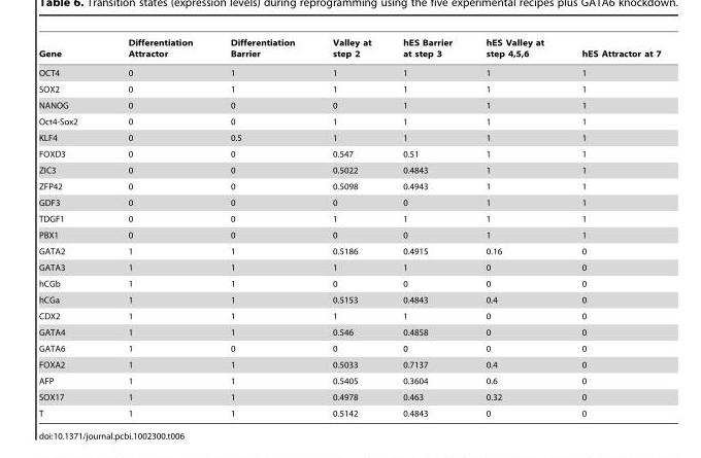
<table><thead><tr><td>Gene</td><td>Differentiation Attractor</td><td>Differentiation Barrier</td><td>Valley at step 2</td><td>hES Barrier at step 3</td><td>hES Valley at step 4,5,6</td><td>hES Attractor at 7</td></tr></thead><tbody><tr><td>OCT4</td><td>0</td><td>1</td><td>1</td><td>1</td><td>1</td><td>1</td></tr><tr><td>SOX2</td><td>0</td><td>1</td><td>1</td><td>1</td><td>1</td><td>1</td></tr><tr><td>NANOG</td><td>0</td><td>0</td><td>0</td><td>1</td><td>1</td><td>1</td></tr><tr><td>Oct4-Sox2</td><td>0</td><td>0</td><td>1</td><td>1</td><td>1</td><td>1</td></tr><tr><td>KLF4</td><td>0</td><td>0.5</td><td>1</td><td>1</td><td>1</td><td>1</td></tr><tr><td>FOXD3</td><td>0</td><td>0</td><td>0.547</td><td>0.51</td><td>1</td><td>1</td></tr><tr><td>ZIC3</td><td>0</td><td>0</td><td>0.5022</td><td>0.4843</td><td>1</td><td>1</td></tr><tr><td>ZFP42</td><td>0</td><td>0</td><td>0.5098</td><td>0.4943</td><td>1</td><td>1</td></tr><tr><td>GDF3</td><td>0</td><td>0</td><td>0</td><td>0</td><td>1</td><td>1</td></tr><tr><td>TDGF1</td><td>0</td><td>0</td><td>1</td><td>1</td><td>1</td><td>1</td></tr><tr><td>PBX1</td><td>0</td><td>0</td><td>0</td><td>0</td><td>1</td><td>1</td></tr><tr><td>GATA2</td><td>1</td><td>1</td><td>0.5186</td><td>0.4915</td><td>0.16</td><td>0</td></tr><tr><td>GATA3</td><td>1</td><td>1</td><td>1</td><td>1</td><td>0</td><td>0</td></tr><tr><td>hCGb</td><td>1</td><td>1</td><td>0</td><td>0</td><td>0</td><td>0</td></tr><tr><td>hCGa</td><td>1</td><td>1</td><td>0.5153</td><td>0.4843</td><td>0.4</td><td>0</td></tr><tr><td>CDX2</td><td>1</td><td>1</td><td>1</td><td>1</td><td>0</td><td>0</td></tr><tr><td>GATA4</td><td>1</td><td>1</td><td>0.546</td><td>0.4858</td><td>0</td><td>0</td></tr><tr><td>GATA6</td><td>1</td><td>0</td><td>0</td><td>0</td><td>0</td><td>0</td></tr><tr><td>FOXA2</td><td>1</td><td>1</td><td>0.5033</td><td>0.7137</td><td>0.4</td><td>0</td></tr><tr><td>AFP</td><td>1</td><td>1</td><td>0.5405</td><td>0.3604</td><td>0.6</td><td>0</td></tr><tr><td>SOX17</td><td>1</td><td>1</td><td>0.4978</td><td>0.463</td><td>0.32</td><td>0</td></tr><tr><td>T</td><td>1</td><td>1</td><td>0.5142</td><td>0.4843</td><td>0</td><td>0</td></tr></tbody></table>